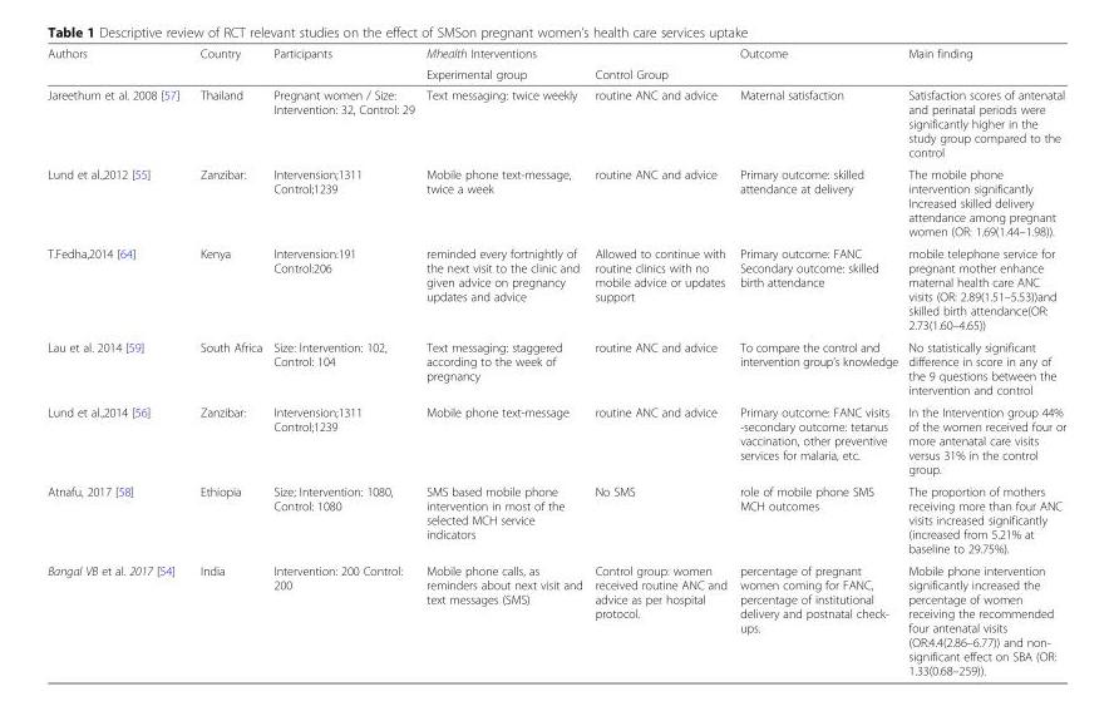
<table><thead><tr><td rowspan="2">Authors</td><td rowspan="2">Country</td><td rowspan="2">Participants</td><td rowspan="2">Mhealth Interventions Experimental group</td><td rowspan="2">Control Group</td><td rowspan="2">Outcome</td><td rowspan="2">Main finding</td></tr><tr></tr></thead><tbody><tr><td>Jareethum et al. 2008 [57]</td><td>Thailand</td><td>Pregnant women / Size: Intervention: 32, Control: 29</td><td>Text messaging: twice weekly</td><td>routine ANC and advice</td><td>Maternal satisfaction</td><td>Satisfaction scores of antenatal and perinatal periods were significantly higher in the study group compared to the control</td></tr><tr><td>Lund et al.,2012 [55]</td><td>Zanzibar:</td><td>Intervension;1311 Control;1239</td><td>Mobile phone text-message, twice a week</td><td>routine ANC and advice</td><td>Primary outcome: skilled attendance at delivery</td><td>The mobile phone intervention significantly Increased skilled delivery attendance among pregnant women (OR: 1.69(1.44–1.98)).</td></tr><tr><td>T.Fedha,2014 [64]</td><td>Kenya</td><td>Intervension:191 Control:206</td><td>reminded every fortnightly of the next visit to the clinic and given advice on pregnancy updates and advice</td><td>Allowed to continue with routine clinics with no mobile advice or updates support</td><td>Primary outcome: FANC Secondary outcome: skilled birth attendance</td><td>mobile telephone service for pregnant mother enhance maternal health care ANC visits (OR: 2.89(1.51–5.53))and skilled birth attendance(OR: 2.73(1.60–4.65))</td></tr><tr><td>Lau et al. 2014 [59]</td><td>South Africa</td><td>Size: Intervention: 102, Control: 104</td><td>Text messaging: staggered according to the week of pregnancy</td><td>routine ANC and advice</td><td>To compare the control and intervention group’s knowledge</td><td>No statistically significant difference in score in any of the 9 questions between the intervention and control</td></tr><tr><td>Lund et al.,2014 [56]</td><td>Zanzibar:</td><td>Intervension;1311 Control;1239</td><td>Mobile phone text-message</td><td>routine ANC and advice</td><td>Primary outcome: FANC visits -secondary outcome: tetanus vaccination, other preventive services for malaria, etc.</td><td>In the Intervention group 44% of the women received four or more antenatal care visits versus 31% in the control group.</td></tr><tr><td>Atnafu, 2017 [58]</td><td>Ethiopia</td><td>Size; Intervention: 1080, Control: 1080</td><td>SMS based mobile phone intervention in most of the selected MCH service indicators</td><td>No SMS</td><td>role of mobile phone SMS MCH outcomes</td><td>The proportion of mothers receiving more than four ANC visits increased significantly (increased from 5.21% at baseline to 29.75%).</td></tr><tr><td>Bangal VB et al. 2017 [54]</td><td>India</td><td>Intervention: 200 Control: 200</td><td>Mobile phone calls, as reminders about next visit and text messages (SMS)</td><td>Control group: women received routine ANC and advice as per hospital protocol.</td><td>percentage of pregnant women coming for FANC, percentage of institutional delivery and postnatal check- ups.</td><td>Mobile phone intervention significantly increased the percentage of women receiving the recommended four antenatal visits (OR:4.4(2.86–6.77)) and non- significant effect on SBA (OR: 1.33(0.68–259)).</td></tr></tbody></table>